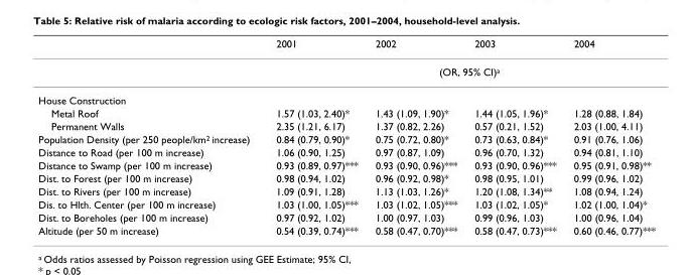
<table><thead><tr><td></td><td>2001</td><td>2002</td><td>2003</td><td>2004</td></tr></thead><tbody><tr><td></td><td colspan="4">(OR, 95% CI)<sup>a</sup></td></tr><tr><td colspan="5">House Construction</td></tr><tr><td>Metal Roof</td><td>1.57 (1.03, 2.40)*</td><td>1.43 (1.09, 1.90)*</td><td>1.44 (1.05, 1.96)*</td><td>1.28 (0.88, 1.84)</td></tr><tr><td>Permanent Walls</td><td>2.35 (1.21, 6.17)</td><td>1.37 (0.82, 2.26)</td><td>0.57 (0.21, 1.52)</td><td>2.03 (1.00, 4.11)</td></tr><tr><td>Population Density (per 250 people/km<sup>2</sup> increase)</td><td>0.84 (0.79, 0.90)*</td><td>0.75 (0.72, 0.80)*</td><td>0.73 (0.63, 0.84)*</td><td>0.91 (0.76, 1.06)</td></tr><tr><td>Distance to Road (per 100 m increase)</td><td>1.06 (0.90, 1.25)</td><td>0.97 (0.87, 1.09)</td><td>0.96 (0.70, 1.32)</td><td>0.94 (0.81, 1.10)</td></tr><tr><td>Distance to Swamp (per 100 m increase)</td><td>0.93 (0.89, 0.97)***</td><td>0.93 (0.90, 0.96)***</td><td>0.93 (0.90, 0.96)***</td><td>0.95 (0.91, 0.98)**</td></tr><tr><td>Dist. to Forest (per 100 m increase)</td><td>0.98 (0.94, 1.02)</td><td>0.96 (0.92, 0.98)*</td><td>0.98 (0.95, 1.01)</td><td>0.99 (0.96, 1.02)</td></tr><tr><td>Dist. to Rivers (per 100 m increase)</td><td>1.09 (0.91, 1.28)</td><td>1.13 (1.03, 1.26)*</td><td>1.20 (1.08, 1.34)**</td><td>1.08 (0.94, 1.24)</td></tr><tr><td>Dis. to Hlth. Center (per 100 m increase)</td><td>1.03 (1.00, 1.05)***</td><td>1.03 (1.02, 1.05)***</td><td>1.03 (1.02, 1.05)*</td><td>1.02 (1.00, 1.04)*</td></tr><tr><td>Dist. to Boreholes (per 100 m increase)</td><td>0.97 (0.92, 1.02)</td><td>1.00 (0.97, 1.03)</td><td>0.99 (0.96, 1.03)</td><td>1.00 (0.96, 1.04)</td></tr><tr><td>Altitude (per 50 m increase)</td><td>0.54 (0.39, 0.74)***</td><td>0.58 (0.47, 0.70)***</td><td>0.58 (0.47, 0.73)***</td><td>0.60 (0.46, 0.77)***</td></tr></tbody></table>